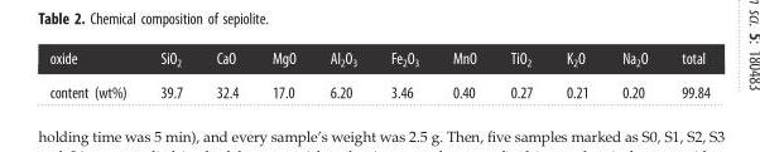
<table><thead><tr><td>oxide</td><td>SiO<sub>2</sub></td><td>CaO</td><td>MgO</td><td>Al<sub>2</sub>O<sub>3</sub></td><td>Fe<sub>2</sub>O<sub>3</sub></td><td>MnO</td><td>TiO<sub>2</sub></td><td>K<sub>2</sub>O</td><td>Na<sub>2</sub>O</td><td>total</td></tr></thead><tbody><tr><td>content (wt%)</td><td>39.7</td><td>32.4</td><td>17.0</td><td>6.20</td><td>3.46</td><td>0.40</td><td>0.27</td><td>0.21</td><td>0.20</td><td>99.84</td></tr></tbody></table>